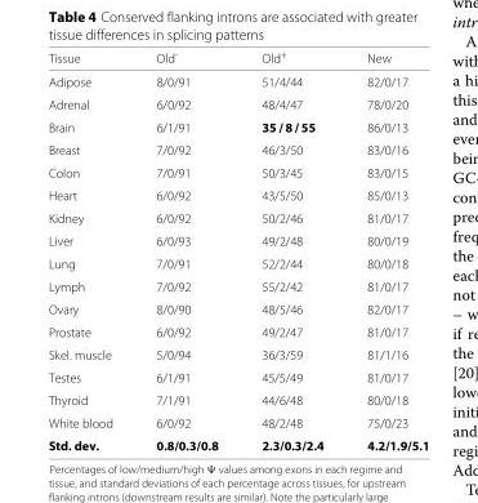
<table><thead><tr><td>Tissue</td><td>Old<sup>-</sup></td><td>Old<sup>+</sup></td><td>New</td></tr></thead><tbody><tr><td>Adipose</td><td>8/0/91</td><td>51/4/44</td><td>82/0/17</td></tr><tr><td>Adrenal</td><td>6/0/92</td><td>48/4/47</td><td>78/0/20</td></tr><tr><td>Brain</td><td>6/1/91</td><td>35 / 8 / 55</td><td>86/0/13</td></tr><tr><td>Breast</td><td>7/0/92</td><td>46/3/50</td><td>83/0/16</td></tr><tr><td>Colon</td><td>7/0/91</td><td>50/3/45</td><td>83/0/15</td></tr><tr><td>Heart</td><td>6/0/92</td><td>43/5/50</td><td>85/0/13</td></tr><tr><td>Kidney</td><td>6/0/92</td><td>50/2/46</td><td>81/0/17</td></tr><tr><td>Liver</td><td>6/0/93</td><td>49/2/48</td><td>80/0/19</td></tr><tr><td>Lung</td><td>7/0/91</td><td>52/2/44</td><td>80/0/18</td></tr><tr><td>Lymph</td><td>7/0/92</td><td>55/2/42</td><td>81/0/17</td></tr><tr><td>Ovary</td><td>8/0/90</td><td>48/5/46</td><td>82/0/17</td></tr><tr><td>Prostate</td><td>6/0/92</td><td>49/2/47</td><td>81/0/17</td></tr><tr><td>Skel. muscle</td><td>5/0/94</td><td>36/3/59</td><td>81/1/16</td></tr><tr><td>Testes</td><td>6/1/91</td><td>45/5/49</td><td>81/0/17</td></tr><tr><td>Thyroid</td><td>7/1/91</td><td>44/6/48</td><td>80/0/18</td></tr><tr><td>White blood</td><td>6/0/92</td><td>48/2/48</td><td>75/0/23</td></tr><tr><td>Std. dev.</td><td>0.8/0.3/0.8</td><td>2.3/0.3/2.4</td><td>4.2/1.9/5.1</td></tr></tbody></table>